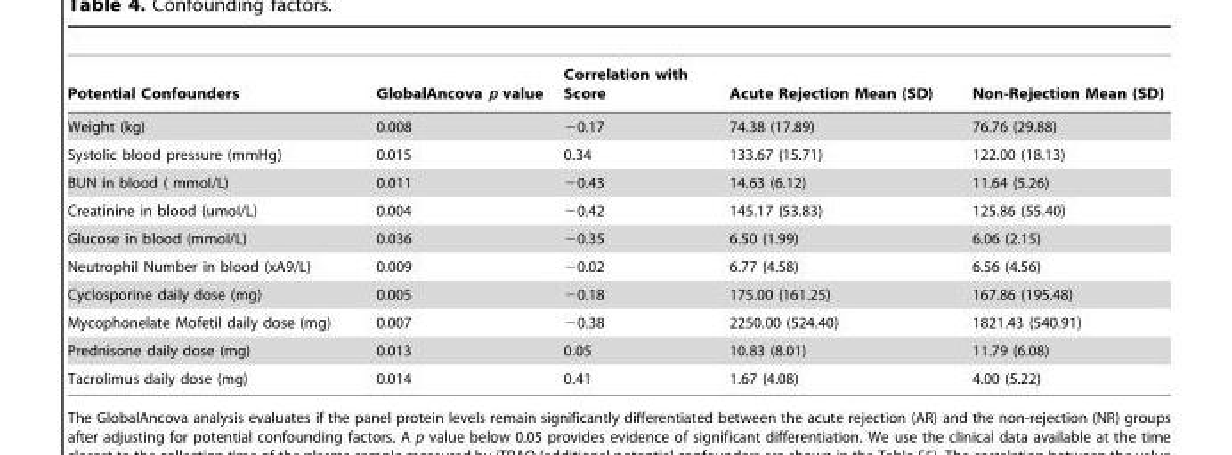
<table><thead><tr><td>Potential Confounders</td><td>GlobalAncova p value</td><td>Correlation with Score</td><td>Acute Rejection Mean (SD)</td><td>Non-Rejection Mean (SD)</td></tr></thead><tbody><tr><td>Weight (kg)</td><td>0.008</td><td>−0.17</td><td>74.38 (17.89)</td><td>76.76 (29.88)</td></tr><tr><td>Systolic blood pressure (mmHg)</td><td>0.015</td><td>0.34</td><td>133.67 (15.71)</td><td>122.00 (18.13)</td></tr><tr><td>BUN in blood ( mmoI/L)</td><td>0.011</td><td>−0.43</td><td>14.63 (6.12)</td><td>11.64 (5.26)</td></tr><tr><td>Creatinine in blood (umoI/L)</td><td>0.004</td><td>−0.42</td><td>145.17 (53.83)</td><td>125.86 (55.40)</td></tr><tr><td>Glucose in blood (mmoI/L)</td><td>0.036</td><td>−0.35</td><td>6.50 (1.99)</td><td>6.06 (2.15)</td></tr><tr><td>Neutrophil Number in blood (xA9/L)</td><td>0.009</td><td>−0.02</td><td>6.77 (4.58)</td><td>6.56 (4.56)</td></tr><tr><td>Cyclosporine daily dose (mg)</td><td>0.005</td><td>−0.18</td><td>175.00 (161.25)</td><td>167.86 (195.48)</td></tr><tr><td>Mycophonelate Mofetil daily dose (mg)</td><td>0.007</td><td>−0.38</td><td>2250.00 (524.40)</td><td>1821.43 (540.91)</td></tr><tr><td>Prednisone daily dose (mg)</td><td>0.013</td><td>0.05</td><td>10.83 (8.01)</td><td>11.79 (6.08)</td></tr><tr><td>Tacrolimus daily dose (mg)</td><td>0.014</td><td>0.41</td><td>1.67 (4.08)</td><td>4.00 (5.22)</td></tr></tbody></table>